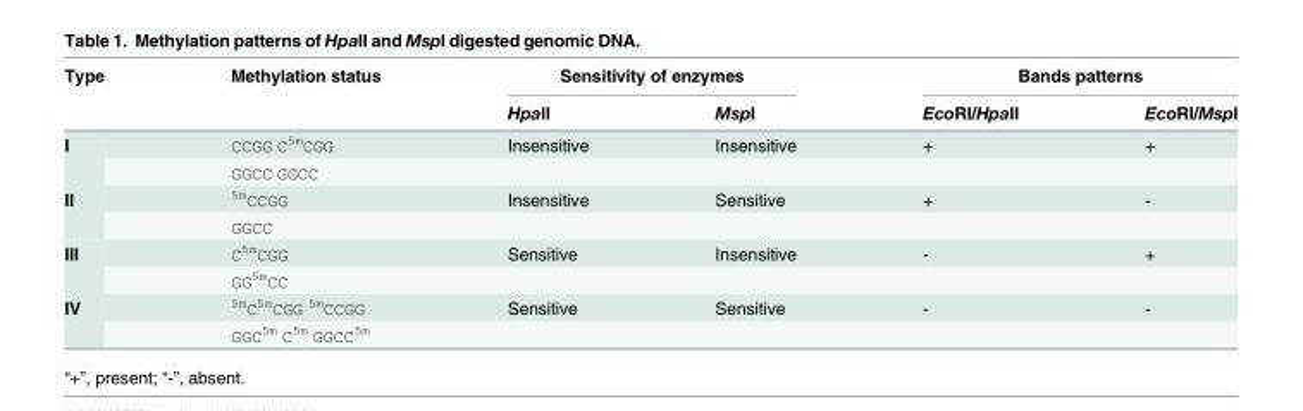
<table><thead><tr><td rowspan="2">Type</td><td rowspan="2">Methylation status</td><td colspan="2">Sensitivity of enzymes</td><td colspan="2">Bands patterns</td></tr><tr><td>HpaII</td><td>MspI</td><td>EcoRI/HpaII</td><td>EcoRI/MspI</td></tr></thead><tbody><tr><td rowspan="2">I</td><td>CCGG C<sup>5m</sup>CGG</td><td>Insensitive</td><td>Insensitive</td><td>+</td><td>+</td></tr><tr><td>GGCC GGCC</td><td></td><td></td><td></td><td></td></tr><tr><td rowspan="2">II</td><td><sup>5m</sup>CCGG</td><td>Insensitive</td><td>Sensitive</td><td>+</td><td>-</td></tr><tr><td>GGCC</td><td></td><td></td><td></td><td></td></tr><tr><td rowspan="2">III</td><td>C<sup>5m</sup>CGG</td><td>Sensitive</td><td>Insensitive</td><td>-</td><td>+</td></tr><tr><td>GG<sup>5m</sup>CC</td><td></td><td></td><td></td><td></td></tr><tr><td rowspan="2">IV</td><td><sup>5m</sup>C<sup>5m</sup>CGG <sup>5m</sup>CCGG</td><td>Sensitive</td><td>Sensitive</td><td>-</td><td>-</td></tr><tr><td>GGC<sup>5m</sup> C<sup>5m</sup> GGCC<sup>5m</sup></td><td></td><td></td><td></td><td></td></tr></tbody></table>